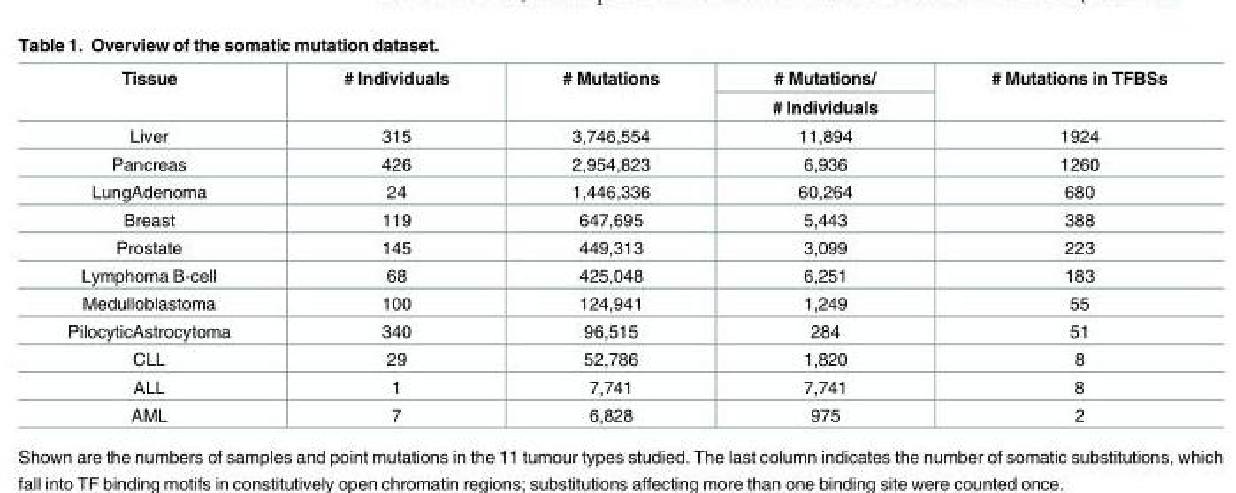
<table><thead><tr><td rowspan="2">Tissue</td><td rowspan="2"># Individuals</td><td rowspan="2"># Mutations</td><td rowspan="2"># Mutations/ # Individuals</td><td rowspan="2"># Mutations in TFBSs</td></tr><tr></tr></thead><tbody><tr><td>Liver</td><td>315</td><td>3,746,554</td><td>11,894</td><td>1924</td></tr><tr><td>Pancreas</td><td>426</td><td>2,954,823</td><td>6,936</td><td>1260</td></tr><tr><td>LungAdenoma</td><td>24</td><td>1,446,336</td><td>60,264</td><td>680</td></tr><tr><td>Breast</td><td>119</td><td>647,695</td><td>5,443</td><td>388</td></tr><tr><td>Prostate</td><td>145</td><td>449,313</td><td>3,099</td><td>223</td></tr><tr><td>Lymphoma B-cell</td><td>68</td><td>425,048</td><td>6,251</td><td>183</td></tr><tr><td>Medulloblastoma</td><td>100</td><td>124,941</td><td>1,249</td><td>55</td></tr><tr><td>PilocyticAstrocytoma</td><td>340</td><td>96,515</td><td>284</td><td>51</td></tr><tr><td>CLL</td><td>29</td><td>52,786</td><td>1,820</td><td>8</td></tr><tr><td>ALL</td><td>1</td><td>7,741</td><td>7,741</td><td>8</td></tr><tr><td>AML</td><td>7</td><td>6,828</td><td>975</td><td>2</td></tr></tbody></table>